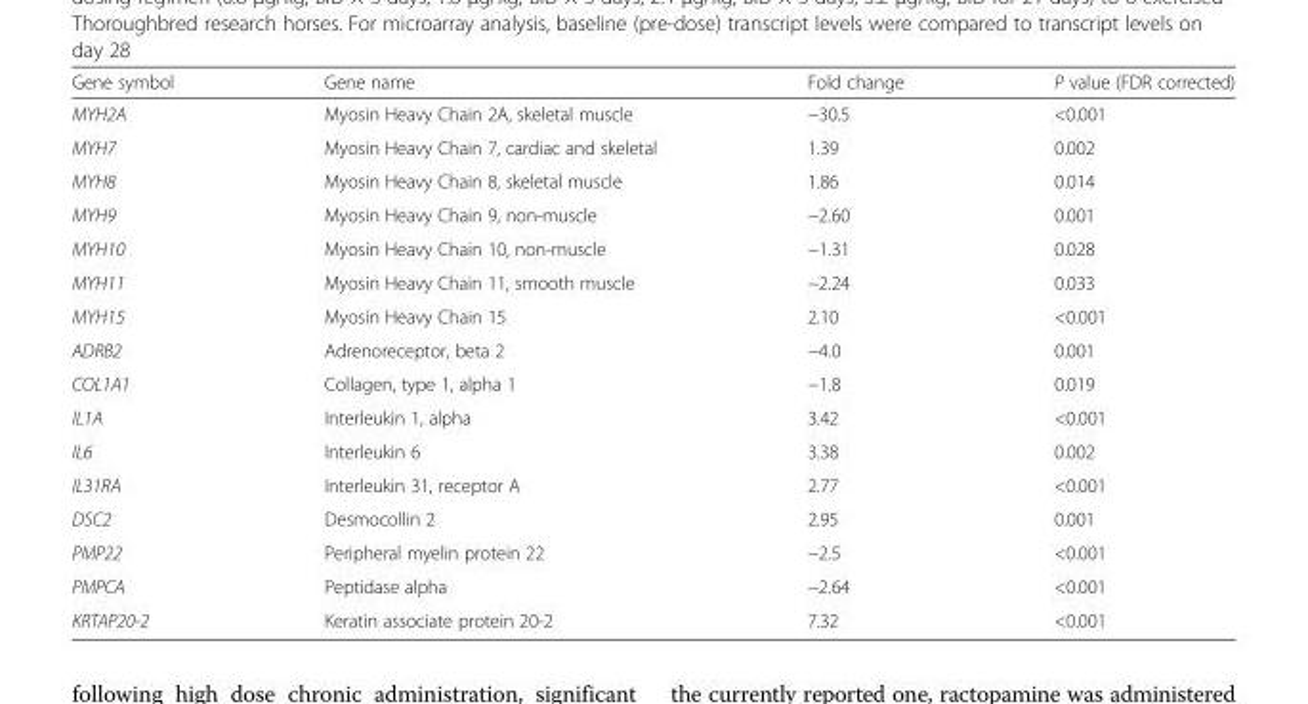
<table><thead><tr><td>Gene symbol</td><td>Gene name</td><td>Fold change</td><td>P value (FDR corrected)</td></tr></thead><tbody><tr><td>MYH2A</td><td>Myosin Heavy Chain 2A, skeletal muscle</td><td>−30.5</td><td>&lt;0.001</td></tr><tr><td>MYH7</td><td>Myosin Heavy Chain 7, cardiac and skeletal</td><td>1.39</td><td>0.002</td></tr><tr><td>MYH8</td><td>Myosin Heavy Chain 8, skeletal muscle</td><td>1.86</td><td>0.014</td></tr><tr><td>MYH9</td><td>Myosin Heavy Chain 9, non-muscle</td><td>−2.60</td><td>0.001</td></tr><tr><td>MYH10</td><td>Myosin Heavy Chain 10, non-muscle</td><td>−1.31</td><td>0.028</td></tr><tr><td>MYH11</td><td>Myosin Heavy Chain 11, smooth muscle</td><td>−2.24</td><td>0.033</td></tr><tr><td>MYH15</td><td>Myosin Heavy Chain 15</td><td>2.10</td><td>&lt;0.001</td></tr><tr><td>ADRB2</td><td>Adrenoreceptor, beta 2</td><td>−4.0</td><td>0.001</td></tr><tr><td>COL1A1</td><td>Collagen, type 1, alpha 1</td><td>−1.8</td><td>0.019</td></tr><tr><td>IL1A</td><td>Interleukin 1, alpha</td><td>3.42</td><td>&lt;0.001</td></tr><tr><td>IL6</td><td>Interleukin 6</td><td>3.38</td><td>0.002</td></tr><tr><td>IL31RA</td><td>Interleukin 31, receptor A</td><td>2.77</td><td>&lt;0.001</td></tr><tr><td>DSC2</td><td>Desmocollin 2</td><td>2.95</td><td>0.001</td></tr><tr><td>PMP22</td><td>Peripheral myelin protein 22</td><td>−2.5</td><td>&lt;0.001</td></tr><tr><td>PMPCA</td><td>Peptidase alpha</td><td>−2.64</td><td>&lt;0.001</td></tr><tr><td>KRTAP20-2</td><td>Keratin associate protein 20-2</td><td>7.32</td><td>&lt;0.001</td></tr></tbody></table>